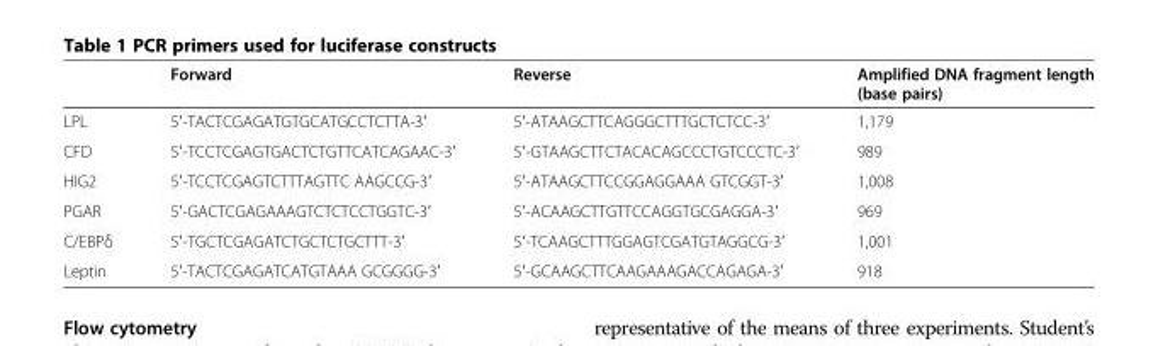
<table><thead><tr><td></td><td>Forward</td><td>Reverse</td><td>Amplified DNA fragment length (base pairs)</td></tr></thead><tbody><tr><td>LPL</td><td>5′-TACTCGAGATGTGCATGCCTCTTA-3′</td><td>5′-ATAAGCTTCAGGGCTTTGCTCTCC-3′</td><td>1,179</td></tr><tr><td>CFD</td><td>5′-TCCTCGAGTGACTCTGTTCATCAGAAC-3′</td><td>5′-GTAAGCTTCTACACAGCCCTGTCCCTC-3′</td><td>989</td></tr><tr><td>HIG2</td><td>5′-TCCTCGAGTCTTTAGTTC AAGCCG-3′</td><td>5′-ATAAGCTTCCGGAGGAAA GTCGGT-3′</td><td>1,008</td></tr><tr><td>PGAR</td><td>5′-GACTCGAGAAAGTCTCTCCTGGTC-3′</td><td>5′-ACAAGCTTGTTCCAGGTGCGAGGA-3′</td><td>969</td></tr><tr><td>C/EBPδ</td><td>5′-TGCTCGAGATCTGCTCTGCTTT-3′</td><td>5′-TCAAGCTTTGGAGTCGATGTAGGCG-3′</td><td>1,001</td></tr><tr><td>Leptin</td><td>5′-TACTCGAGATCATGTAAA GCGGGG-3′</td><td>5′-GCAAGCTTCAAGAAAGACCAGAGA-3′</td><td>918</td></tr></tbody></table>